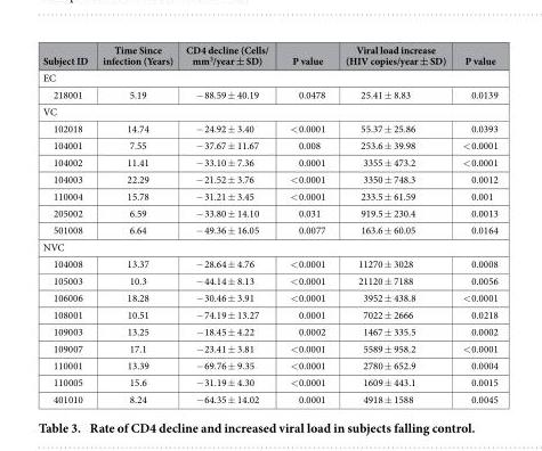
<table><thead><tr><td>Subject ID</td><td>Time Since infection (Years)</td><td>CD4 decline (Cells/ mm<sup>3</sup>/year ± SD)</td><td>P value</td><td>Viral load increase (HIV copies/year ± SD)</td><td>P value</td></tr></thead><tbody><tr><td colspan="6">EC</td></tr><tr><td>218001</td><td>5.19</td><td>− 88.59 ± 40.19</td><td>0.0478</td><td>25.41 ± 8.83</td><td>0.0139</td></tr><tr><td colspan="6">VC</td></tr><tr><td>102018</td><td>14.74</td><td>− 24.92 ± 3.40</td><td>&lt; 0.0001</td><td>55.37 ± 25.86</td><td>0.0393</td></tr><tr><td>104001</td><td>7.55</td><td>− 37.67 ± 11.67</td><td>0.008</td><td>253.6 ± 39.98</td><td>&lt; 0.0001</td></tr><tr><td>104002</td><td>11.41</td><td>− 33.10 ± 7.36</td><td>0.0001</td><td>3355 ± 473.2</td><td>&lt; 0.0001</td></tr><tr><td>104003</td><td>22.29</td><td>− 21.52 ± 3.76</td><td>&lt; 0.0001</td><td>3350 ± 748.3</td><td>0.0012</td></tr><tr><td>110004</td><td>15.78</td><td>− 31.21 ± 3.45</td><td>&lt; 0.0001</td><td>233.5 ± 61.59</td><td>0.001</td></tr><tr><td>205002</td><td>6.59</td><td>− 33.80 ± 14.10</td><td>0.031</td><td>919.5 ± 230.4</td><td>0.0013</td></tr><tr><td>501008</td><td>6.64</td><td>− 49.36 ± 16.05</td><td>0.0077</td><td>163.6 ± 60.05</td><td>0.0164</td></tr><tr><td colspan="6">NVC</td></tr><tr><td>104008</td><td>13.37</td><td>− 28.64 ± 4.76</td><td>&lt; 0.0001</td><td>11270 ± 3028</td><td>0.0008</td></tr><tr><td>105003</td><td>10.3</td><td>− 44.14 ± 8.13</td><td>&lt; 0.0001</td><td>21120 ± 7188</td><td>0.0056</td></tr><tr><td>106006</td><td>18.28</td><td>− 30.46 ± 3.91</td><td>&lt; 0.0001</td><td>3952 ± 438.8</td><td>&lt; 0.0001</td></tr><tr><td>108001</td><td>10.51</td><td>− 74.19 ± 13.27</td><td>0.0001</td><td>7022 ± 2666</td><td>0.0218</td></tr><tr><td>109003</td><td>13.25</td><td>− 18.45 ± 4.22</td><td>0.0002</td><td>1467 ± 335.5</td><td>0.0002</td></tr><tr><td>109007</td><td>17.1</td><td>− 23.41 ± 3.81</td><td>&lt; 0.0001</td><td>5589 ± 958.2</td><td>&lt; 0.0001</td></tr><tr><td>110001</td><td>13.39</td><td>− 69.76 ± 9.35</td><td>&lt; 0.0001</td><td>2780 ± 652.9</td><td>0.0004</td></tr><tr><td>110005</td><td>15.6</td><td>− 31.19 ± 4.30</td><td>&lt; 0.0001</td><td>1609 ± 443.1</td><td>0.0015</td></tr><tr><td>401010</td><td>8.24</td><td>− 64.35 ± 14.02</td><td>0.0001</td><td>4918 ± 1588</td><td>0.0045</td></tr></tbody></table>